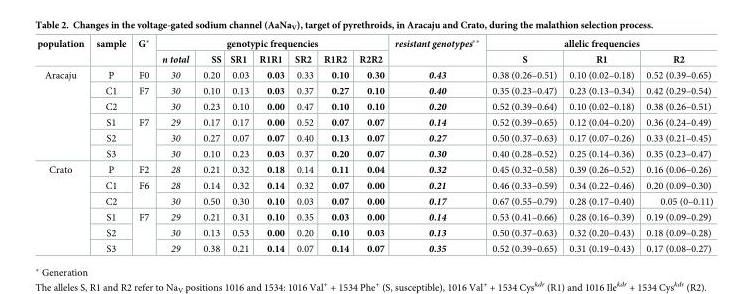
<table><thead><tr><td rowspan="2">population</td><td rowspan="2">sample</td><td rowspan="2">G*</td><td colspan="7">genotypic frequencies</td><td rowspan="2">resistant genotypes**</td><td colspan="3">allelic frequencies</td></tr><tr><td>n total</td><td>SS</td><td>SR1</td><td>R1R1</td><td>SR2</td><td>R1R2</td><td>R2R2</td><td>S</td><td>R1</td><td>R2</td></tr></thead><tbody><tr><td rowspan="6">Aracaju</td><td>P</td><td>F0</td><td>30</td><td>0.20</td><td>0.03</td><td>0.03</td><td>0.33</td><td>0.10</td><td>0.30</td><td>0.43</td><td>0.38 (0.26–0.51)</td><td>0.10 (0.02–0.18)</td><td>0.52 (0.39–0.65)</td></tr><tr><td>C1</td><td rowspan="2">F7</td><td>30</td><td>0.10</td><td>0.13</td><td>0.03</td><td>0.37</td><td>0.27</td><td>0.10</td><td>0.40</td><td>0.35 (0.23–0.47)</td><td>0.23 (0.13–0.34)</td><td>0.42 (0.29–0.54)</td></tr><tr><td>C2</td><td>30</td><td>0.23</td><td>0.10</td><td>0.00</td><td>0.47</td><td>0.10</td><td>0.10</td><td>0.20</td><td>0.52 (0.39–0.64)</td><td>0.10 (0.02–0.18)</td><td>0.38 (0.26–0.51)</td></tr><tr><td>S1</td><td rowspan="3">F7</td><td>29</td><td>0.17</td><td>0.17</td><td>0.00</td><td>0.52</td><td>0.07</td><td>0.07</td><td>0.14</td><td>0.52 (0.39–0.65)</td><td>0.12 (0.04–0.20)</td><td>0.36 (0.24–0.49)</td></tr><tr><td>S2</td><td>30</td><td>0.27</td><td>0.07</td><td>0.07</td><td>0.40</td><td>0.13</td><td>0.07</td><td>0.27</td><td>0.50 (0.37–0.63)</td><td>0.17 (0.07–0.26)</td><td>0.33 (0.21–0.45)</td></tr><tr><td>S3</td><td>30</td><td>0.10</td><td>0.23</td><td>0.03</td><td>0.37</td><td>0.20</td><td>0.07</td><td>0.30</td><td>0.40 (0.28–0.52)</td><td>0.25 (0.14–0.36)</td><td>0.35 (0.23–0.47)</td></tr><tr><td rowspan="6">Crato</td><td>P</td><td>F2</td><td>28</td><td>0.21</td><td>0.32</td><td>0.18</td><td>0.14</td><td>0.11</td><td>0.04</td><td>0.32</td><td>0.45 (0.32–0.58)</td><td>0.39 (0.26–0.52)</td><td>0.16 (0.06–0.26)</td></tr><tr><td>C1</td><td rowspan="2">F6</td><td>28</td><td>0.14</td><td>0.32</td><td>0.14</td><td>0.32</td><td>0.07</td><td>0.00</td><td>0.21</td><td>0.46 (0.33–0.59)</td><td>0.34 (0.22–0.46)</td><td>0.20 (0.09–0.30)</td></tr><tr><td>C2</td><td>30</td><td>0.50</td><td>0.30</td><td>0.10</td><td>0.03</td><td>0.07</td><td>0.00</td><td>0.17</td><td>0.67 (0.55–0.79)</td><td>0.28 (0.17–0.40)</td><td>0.05 (0–0.11)</td></tr><tr><td>S1</td><td rowspan="3">F7</td><td>29</td><td>0.21</td><td>0.31</td><td>0.10</td><td>0.35</td><td>0.03</td><td>0.00</td><td>0.14</td><td>0.53 (0.41–0.66)</td><td>0.28 (0.16–0.39)</td><td>0.19 (0.09–0.29)</td></tr><tr><td>S2</td><td>30</td><td>0.13</td><td>0.53</td><td>0.00</td><td>0.20</td><td>0.10</td><td>0.03</td><td>0.13</td><td>0.50 (0.37–0.63)</td><td>0.32 (0.20–0.43)</td><td>0.18 (0.09–0.28)</td></tr><tr><td>S3</td><td>29</td><td>0.38</td><td>0.21</td><td>0.14</td><td>0.07</td><td>0.14</td><td>0.07</td><td>0.35</td><td>0.52 (0.39–0.65)</td><td>0.31 (0.19–0.43)</td><td>0.17 (0.08–0.27)</td></tr></tbody></table>